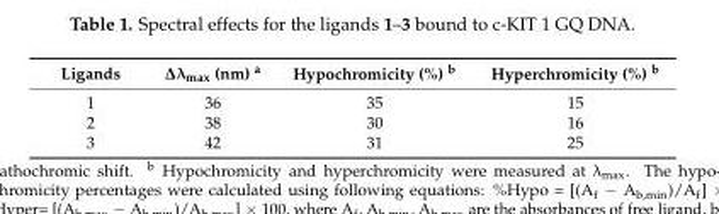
<table><thead><tr><td>Ligands</td><td>∆λmax (nm) a</td><td>Hypochromicity (%) <sup>b</sup></td><td>Hyperchromicity (%) <sup>b</sup></td></tr></thead><tbody><tr><td>1</td><td>36</td><td>35</td><td>15</td></tr><tr><td>2</td><td>38</td><td>30</td><td>16</td></tr><tr><td>3</td><td>42</td><td>31</td><td>25</td></tr></tbody></table>